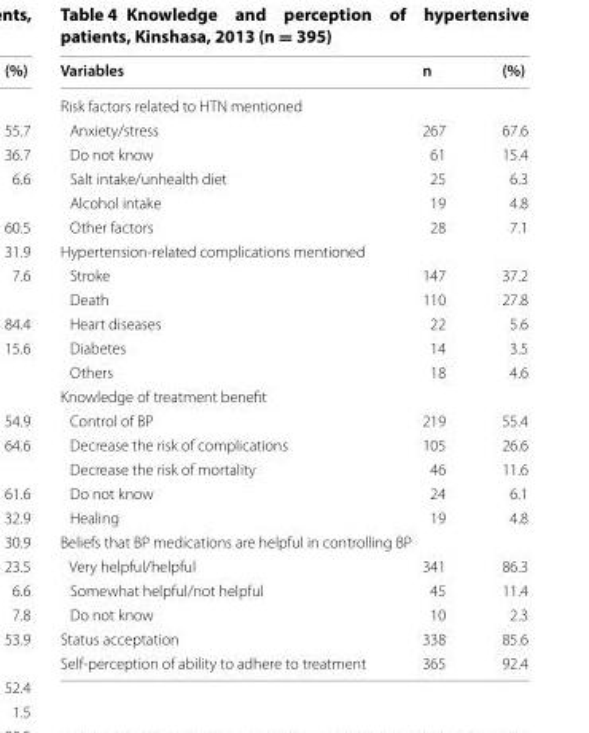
<table><thead><tr><td>Variables</td><td>n</td><td>(%)</td></tr></thead><tbody><tr><td colspan="3">Risk factors related to HTN mentioned</td></tr><tr><td>Anxiety/stress</td><td>267</td><td>67.6</td></tr><tr><td>Do not know</td><td>61</td><td>15.4</td></tr><tr><td>Salt intake/unhealth diet</td><td>25</td><td>6.3</td></tr><tr><td>Alcohol intake</td><td>19</td><td>4.8</td></tr><tr><td>Other factors</td><td>28</td><td>7.1</td></tr><tr><td colspan="3">Hypertension-related complications mentioned</td></tr><tr><td>Stroke</td><td>147</td><td>37.2</td></tr><tr><td>Death</td><td>110</td><td>27.8</td></tr><tr><td>Heart diseases</td><td>22</td><td>5.6</td></tr><tr><td>Diabetes</td><td>14</td><td>3.5</td></tr><tr><td>Others</td><td>18</td><td>4.6</td></tr><tr><td colspan="3">Knowledge of treatment benefit</td></tr><tr><td>Control of BP</td><td>219</td><td>55.4</td></tr><tr><td>Decrease the risk of complications</td><td>105</td><td>26.6</td></tr><tr><td>Decrease the risk of mortality</td><td>46</td><td>11.6</td></tr><tr><td>Do not know</td><td>24</td><td>6.1</td></tr><tr><td>Healing</td><td>19</td><td>4.8</td></tr><tr><td colspan="3">Beliefs that BP medications are helpful in controlling BP</td></tr><tr><td>Very helpful/helpful</td><td>341</td><td>86.3</td></tr><tr><td>Somewhat helpful/not helpful</td><td>45</td><td>11.4</td></tr><tr><td>Do not know</td><td>10</td><td>2.3</td></tr><tr><td>Status acceptation</td><td>338</td><td>85.6</td></tr><tr><td>Self-perception of ability to adhere to treatment</td><td>365</td><td>92.4</td></tr></tbody></table>